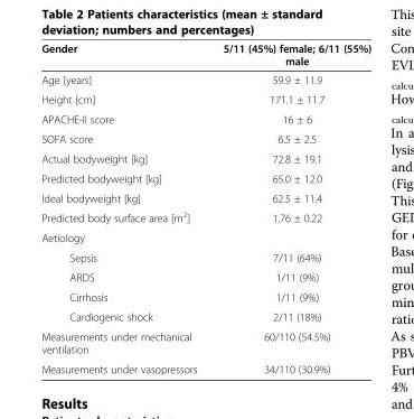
<table><thead><tr><td>Gender</td><td>5/11 (45%) female; 6/11 (55%) male</td></tr></thead><tbody><tr><td>Age [years]</td><td>59.9 ± 11.9</td></tr><tr><td>Height [cm]</td><td>171.1 ± 11.7</td></tr><tr><td>APACHE-II score</td><td>16 ± 6</td></tr><tr><td>SOFA score</td><td>6.5 ± 2.5</td></tr><tr><td>Actual bodyweight [kg]</td><td>72.8 ± 19.1</td></tr><tr><td>Predicted bodyweight [kg]</td><td>65.0 ± 12.0</td></tr><tr><td>Ideal bodyweight [kg]</td><td>62.5 ± 11.4</td></tr><tr><td>Predicted body surface area [m<sup>2</sup>]</td><td>1.76 ± 0.22</td></tr><tr><td colspan="2">Aetiology</td></tr><tr><td>Sepsis</td><td>7/11 (64%)</td></tr><tr><td>ARDS</td><td>1/11 (9%)</td></tr><tr><td>Cirrhosis</td><td>1/11 (9%)</td></tr><tr><td>Cardiogenic shock</td><td>2/11 (18%)</td></tr><tr><td>Measurements under mechanical ventilation</td><td>60/110 (54.5%)</td></tr><tr><td>Measurements under vasopressors</td><td>34/110 (30.9%)</td></tr></tbody></table>